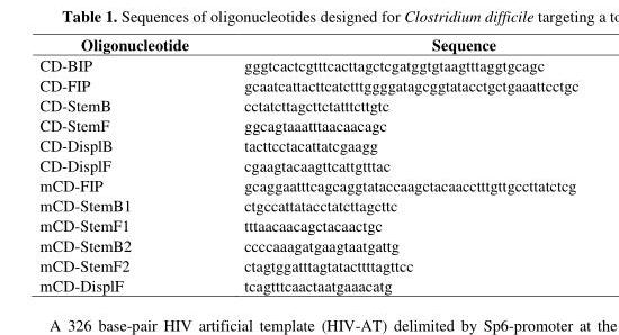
<table><thead><tr><td>Oligonucleotide</td><td>Sequence</td></tr></thead><tbody><tr><td>CD-BIP</td><td>gggtcactcgtttcacttagctcgatggtgtaagtttaggtgcagc</td></tr><tr><td>CD-FIP</td><td>gcaatcattacttcatctttggggatagcggtatacctgctgaaattcctgc</td></tr><tr><td>CD-StemB</td><td>cctatcttagcttctatttcttgtc</td></tr><tr><td>CD-StemF</td><td>ggcagtaaatttaacaacagc</td></tr><tr><td>CD-DisplB</td><td>tacttcctacattatcgaagg</td></tr><tr><td>CD-DisplF</td><td>cgaagtacaagttcattgtttac</td></tr><tr><td>mCD-FIP</td><td>gcaggaatttcagcaggtataccaagctacaacctttgttgccttatctcg</td></tr><tr><td>mCD-StemB1</td><td>ctgccattatacctatcttagcttc</td></tr><tr><td>mCD-StemF1</td><td>tttaacaacagctacaactgc</td></tr><tr><td>mCD-StemB2</td><td>ccccaaagatgaagtaatgattg</td></tr><tr><td>mCD-StemF2</td><td>ctagtggatttagtatacttttagttcc</td></tr><tr><td>mCD-DisplF</td><td>tcagtttcaactaatgaaacatg</td></tr></tbody></table>